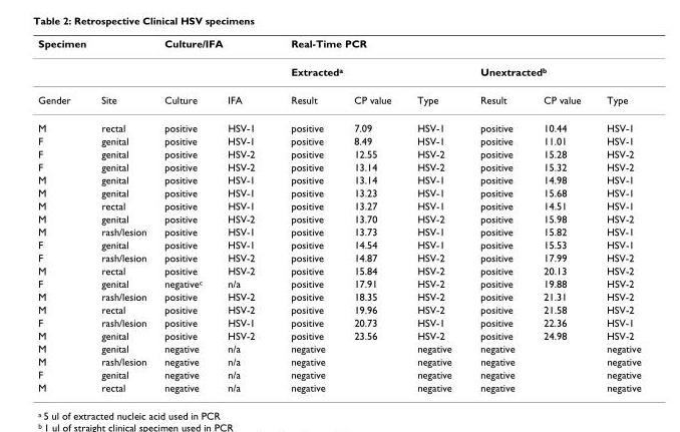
<table><thead><tr><td colspan="2">Specimen</td><td colspan="2">Culture/IFA</td><td colspan="6">Real-Time PCR</td></tr><tr><td rowspan="2">Gender</td><td rowspan="2">Site</td><td rowspan="2">Culture</td><td rowspan="2">IFA</td><td colspan="3">Extracted<sup>a</sup></td><td colspan="3">Unextracted<sup>b</sup></td></tr><tr><td>Result</td><td>CP value</td><td>Type</td><td>Result</td><td>CP value</td><td>Type</td></tr></thead><tbody><tr><td>M</td><td>rectal</td><td>positive</td><td>HSV-1</td><td>positive</td><td>7.09</td><td>HSV-1</td><td>positive</td><td>10.44</td><td>HSV-1</td></tr><tr><td>F</td><td>genital</td><td>positive</td><td>HSV-1</td><td>positive</td><td>8.49</td><td>HSV-1</td><td>positive</td><td>11.01</td><td>HSV-1</td></tr><tr><td>F</td><td>genital</td><td>positive</td><td>HSV-2</td><td>positive</td><td>12.55</td><td>HSV-2</td><td>positive</td><td>15.28</td><td>HSV-2</td></tr><tr><td>F</td><td>genital</td><td>positive</td><td>HSV-2</td><td>positive</td><td>13.14</td><td>HSV-2</td><td>positive</td><td>15.32</td><td>HSV-2</td></tr><tr><td>M</td><td>genital</td><td>positive</td><td>HSV-1</td><td>positive</td><td>13.14</td><td>HSV-1</td><td>positive</td><td>14.98</td><td>HSV-1</td></tr><tr><td>M</td><td>genital</td><td>positive</td><td>HSV-1</td><td>positive</td><td>13.23</td><td>HSV-1</td><td>positive</td><td>15.68</td><td>HSV-1</td></tr><tr><td>M</td><td>rectal</td><td>positive</td><td>HSV-1</td><td>positive</td><td>13.27</td><td>HSV-1</td><td>positive</td><td>14.51</td><td>HSV-1</td></tr><tr><td>M</td><td>genital</td><td>positive</td><td>HSV-2</td><td>positive</td><td>13.70</td><td>HSV-2</td><td>positive</td><td>15.98</td><td>HSV-2</td></tr><tr><td>M</td><td>rash/lesion</td><td>positive</td><td>HSV-1</td><td>positive</td><td>13.73</td><td>HSV-1</td><td>positive</td><td>15.82</td><td>HSV-1</td></tr><tr><td>F</td><td>genital</td><td>positive</td><td>HSV-1</td><td>positive</td><td>14.54</td><td>HSV-1</td><td>positive</td><td>15.53</td><td>HSV-1</td></tr><tr><td>F</td><td>rash/lesion</td><td>positive</td><td>HSV-2</td><td>positive</td><td>14.87</td><td>HSV-2</td><td>positive</td><td>17.99</td><td>HSV-2</td></tr><tr><td>M</td><td>rectal</td><td>positive</td><td>HSV-2</td><td>positive</td><td>15.84</td><td>HSV-2</td><td>positive</td><td>20.13</td><td>HSV-2</td></tr><tr><td>F</td><td>genital</td><td>negative<sup>c</sup></td><td>n/a</td><td>positive</td><td>17.91</td><td>HSV-2</td><td>positive</td><td>19.88</td><td>HSV-2</td></tr><tr><td>M</td><td>rash/lesion</td><td>positive</td><td>HSV-2</td><td>positive</td><td>18.35</td><td>HSV-2</td><td>positive</td><td>21.31</td><td>HSV-2</td></tr><tr><td>M</td><td>rectal</td><td>positive</td><td>HSV-2</td><td>positive</td><td>19.96</td><td>HSV-2</td><td>positive</td><td>21.58</td><td>HSV-2</td></tr><tr><td>F</td><td>rash/lesion</td><td>positive</td><td>HSV-1</td><td>positive</td><td>20.73</td><td>HSV-1</td><td>positive</td><td>22.36</td><td>HSV-1</td></tr><tr><td>M</td><td>genital</td><td>positive</td><td>HSV-2</td><td>positive</td><td>23.56</td><td>HSV-2</td><td>positive</td><td>24.98</td><td>HSV-2</td></tr><tr><td>M</td><td>genital</td><td>negative</td><td>n/a</td><td>negative</td><td></td><td>negative</td><td>negative</td><td></td><td>negative</td></tr><tr><td>M</td><td>rash/lesion</td><td>negative</td><td>n/a</td><td>negative</td><td></td><td>negative</td><td>negative</td><td></td><td>negative</td></tr><tr><td>F</td><td>genital</td><td>negative</td><td>n/a</td><td>negative</td><td></td><td>negative</td><td>negative</td><td></td><td>negative</td></tr><tr><td>M</td><td>rectal</td><td>negative</td><td>n/a</td><td>negative</td><td></td><td>negative</td><td>negative</td><td></td><td>negative</td></tr></tbody></table>